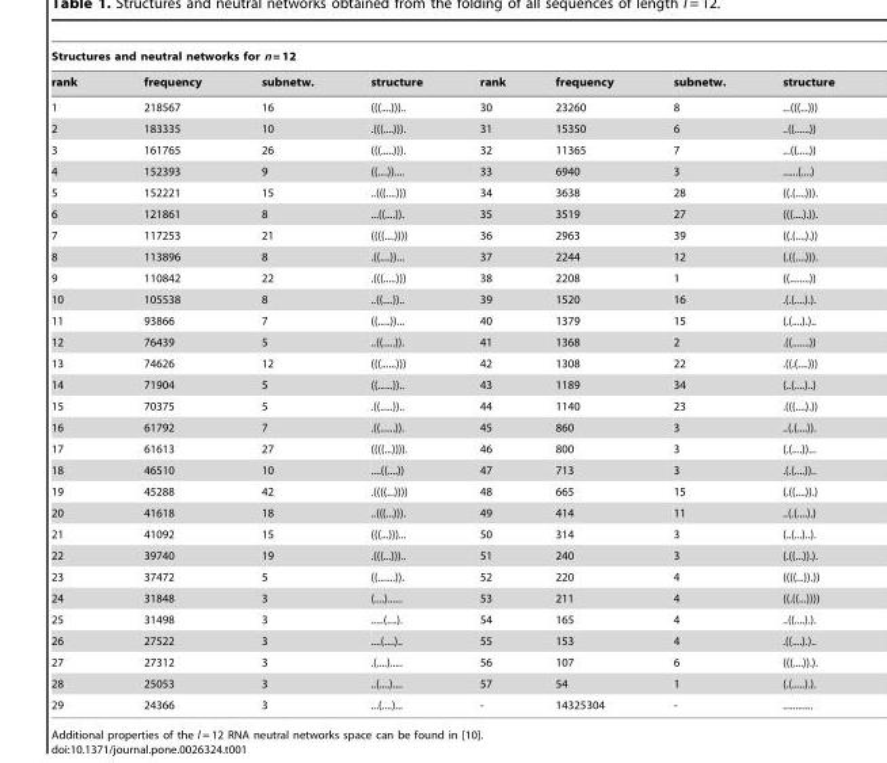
<table><thead><tr><td colspan="8">Structures and neutral networks for n = 12</td></tr><tr><td>rank</td><td>frequency</td><td>subnetw.</td><td>structure</td><td>rank</td><td>frequency</td><td>subnetw.</td><td>structure</td></tr></thead><tbody><tr><td>1</td><td>218567</td><td>16</td><td>(((....)))..</td><td>30</td><td>23260</td><td>8</td><td>...(((...)))</td></tr><tr><td>2</td><td>183335</td><td>10</td><td>.(((....))).</td><td>31</td><td>15350</td><td>6</td><td>..((......))</td></tr><tr><td>3</td><td>161765</td><td>26</td><td>(((.....))).</td><td>32</td><td>11365</td><td>7</td><td>...((.....))</td></tr><tr><td>4</td><td>152393</td><td>9</td><td>((....))....</td><td>33</td><td>6940</td><td>3</td><td>......(....)</td></tr><tr><td>5</td><td>152221</td><td>15</td><td>..(((....)))</td><td>34</td><td>3638</td><td>28</td><td>((.(....))).</td></tr><tr><td>6</td><td>121861</td><td>8</td><td>...((....)).</td><td>35</td><td>3519</td><td>27</td><td>(((....).)).</td></tr><tr><td>7</td><td>117253</td><td>21</td><td>((((....))))</td><td>36</td><td>2963</td><td>39</td><td>((.(....).))</td></tr><tr><td>8</td><td>113896</td><td>8</td><td>.((....))...</td><td>37</td><td>2244</td><td>12</td><td>(.((....))).</td></tr><tr><td>9</td><td>110842</td><td>22</td><td>.(((.....)))</td><td>38</td><td>2208</td><td>1</td><td>((........))</td></tr><tr><td>10</td><td>105538</td><td>8</td><td>..((....))..</td><td>39</td><td>1520</td><td>16</td><td>.(.(....).).</td></tr><tr><td>11</td><td>93866</td><td>7</td><td>((.....))...</td><td>40</td><td>1379</td><td>15</td><td>(.(....).)..</td></tr><tr><td>12</td><td>76439</td><td>5</td><td>..((.....)).</td><td>41</td><td>1368</td><td>2</td><td>.((.......))</td></tr><tr><td>13</td><td>74626</td><td>12</td><td>(((......)))</td><td>42</td><td>1308</td><td>22</td><td>.((.(....)))</td></tr><tr><td>14</td><td>71904</td><td>5</td><td>((......))..</td><td>43</td><td>1189</td><td>34</td><td>(..(....)..)</td></tr><tr><td>15</td><td>70375</td><td>5</td><td>.((.....))..</td><td>44</td><td>1140</td><td>23</td><td>.(((....).))</td></tr><tr><td>16</td><td>61792</td><td>7</td><td>.((......)).</td><td>45</td><td>860</td><td>3</td><td>..(.(....)).</td></tr><tr><td>17</td><td>61613</td><td>27</td><td>((((...)))).</td><td>46</td><td>800</td><td>3</td><td>(.(....))...</td></tr><tr><td>18</td><td>46510</td><td>10</td><td>....((....))</td><td>47</td><td>713</td><td>3</td><td>.(.(....))..</td></tr><tr><td>19</td><td>45288</td><td>42</td><td>.((((...))))</td><td>48</td><td>665</td><td>15</td><td>(.((....)).)</td></tr><tr><td>20</td><td>41618</td><td>18</td><td>..(((...))).</td><td>49</td><td>414</td><td>11</td><td>..(.(....).)</td></tr><tr><td>21</td><td>41092</td><td>15</td><td>(((...)))...</td><td>50</td><td>314</td><td>3</td><td>(..(...)..).</td></tr><tr><td>22</td><td>39740</td><td>19</td><td>.(((...)))..</td><td>51</td><td>240</td><td>3</td><td>(.((...)).).</td></tr><tr><td>23</td><td>37472</td><td>5</td><td>((.......)).</td><td>52</td><td>220</td><td>4</td><td>((((...)).))</td></tr><tr><td>24</td><td>31848</td><td>3</td><td>(....)......</td><td>53</td><td>211</td><td>4</td><td>((.((...))))</td></tr><tr><td>25</td><td>31498</td><td>3</td><td>.....(....).</td><td>54</td><td>165</td><td>4</td><td>..((....).).</td></tr><tr><td>26</td><td>27522</td><td>3</td><td>....(....)..</td><td>55</td><td>153</td><td>4</td><td>.((....).)..</td></tr><tr><td>27</td><td>27312</td><td>3</td><td>.(....).....</td><td>56</td><td>107</td><td>6</td><td>(((....)).).</td></tr><tr><td>28</td><td>25053</td><td>3</td><td>..(....)....</td><td>57</td><td>54</td><td>1</td><td>(.(.....).).</td></tr><tr><td>29</td><td>24366</td><td>3</td><td>...(....)...</td><td>-</td><td>14325304</td><td>-</td><td>............</td></tr></tbody></table>